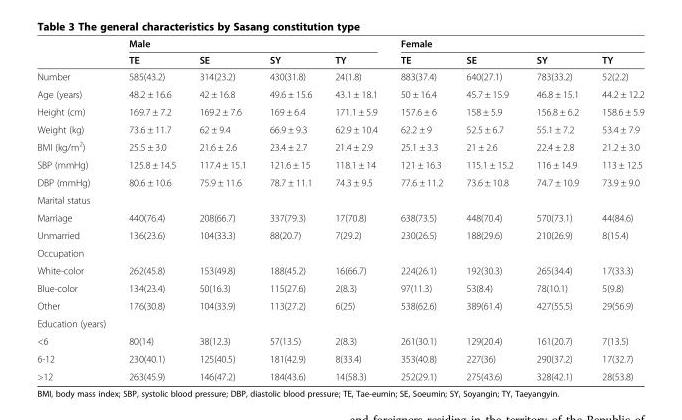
<table><thead><tr><td rowspan="2"></td><td colspan="4">Male</td><td colspan="4">Female</td></tr><tr><td>TE</td><td>SE</td><td>SY</td><td>TY</td><td>TE</td><td>SE</td><td>SY</td><td>TY</td></tr></thead><tbody><tr><td>Number</td><td>585(43.2)</td><td>314(23.2)</td><td>430(31.8)</td><td>24(1.8)</td><td>883(37.4)</td><td>640(27.1)</td><td>783(33.2)</td><td>52(2.2)</td></tr><tr><td>Age (years)</td><td>48.2 ± 16.6</td><td>42 ± 16.8</td><td>49.6 ± 15.6</td><td>43.1 ± 18.1</td><td>50 ± 16.4</td><td>45.7 ± 15.9</td><td>46.8 ± 15.1</td><td>44.2 ± 12.2</td></tr><tr><td>Height (cm)</td><td>169.7 ± 7.2</td><td>169.2 ± 7.6</td><td>169 ± 6.4</td><td>171.1 ± 5.9</td><td>157.6 ± 6</td><td>158 ± 5.9</td><td>156.8 ± 6.2</td><td>158.6 ± 5.9</td></tr><tr><td>Weight (kg)</td><td>73.6 ± 11.7</td><td>62 ± 9.4</td><td>66.9 ± 9.3</td><td>62.9 ± 10.4</td><td>62.2 ± 9</td><td>52.5 ± 6.7</td><td>55.1 ± 7.2</td><td>53.4 ± 7.9</td></tr><tr><td>BMI (kg/m<sup>2</sup>)</td><td>25.5 ± 3.0</td><td>21.6 ± 2.6</td><td>23.4 ± 2.7</td><td>21.4 ± 2.9</td><td>25.1 ± 3.3</td><td>21 ± 2.6</td><td>22.4 ± 2.8</td><td>21.2 ± 3.0</td></tr><tr><td>SBP (mmHg)</td><td>125.8 ± 14.5</td><td>117.4 ± 15.1</td><td>121.6 ± 15</td><td>118.1 ± 14</td><td>121 ± 16.3</td><td>115.1 ± 15.2</td><td>116 ± 14.9</td><td>113 ± 12.5</td></tr><tr><td>DBP (mmHg)</td><td>80.6 ± 10.6</td><td>75.9 ± 11.6</td><td>78.7 ± 11.1</td><td>74.3 ± 9.5</td><td>77.6 ± 11.2</td><td>73.6 ± 10.8</td><td>74.7 ± 10.9</td><td>73.9 ± 9.0</td></tr><tr><td colspan="9">Marital status</td></tr><tr><td>Marriage</td><td>440(76.4)</td><td>208(66.7)</td><td>337(79.3)</td><td>17(70.8)</td><td>638(73.5)</td><td>448(70.4)</td><td>570(73.1)</td><td>44(84.6)</td></tr><tr><td>Unmarried</td><td>136(23.6)</td><td>104(33.3)</td><td>88(20.7)</td><td>7(29.2)</td><td>230(26.5)</td><td>188(29.6)</td><td>210(26.9)</td><td>8(15.4)</td></tr><tr><td colspan="9">Occupation</td></tr><tr><td>White-color</td><td>262(45.8)</td><td>153(49.8)</td><td>188(45.2)</td><td>16(66.7)</td><td>224(26.1)</td><td>192(30.3)</td><td>265(34.4)</td><td>17(33.3)</td></tr><tr><td>Blue-color</td><td>134(23.4)</td><td>50(16.3)</td><td>115(27.6)</td><td>2(8.3)</td><td>97(11.3)</td><td>53(8.4)</td><td>78(10.1)</td><td>5(9.8)</td></tr><tr><td>Other</td><td>176(30.8)</td><td>104(33.9)</td><td>113(27.2)</td><td>6(25)</td><td>538(62.6)</td><td>389(61.4)</td><td>427(55.5)</td><td>29(56.9)</td></tr><tr><td colspan="9">Education (years)</td></tr><tr><td>&lt;6</td><td>80(14)</td><td>38(12.3)</td><td>57(13.5)</td><td>2(8.3)</td><td>261(30.1)</td><td>129(20.4)</td><td>161(20.7)</td><td>7(13.5)</td></tr><tr><td>6-12</td><td>230(40.1)</td><td>125(40.5)</td><td>181(42.9)</td><td>8(33.4)</td><td>353(40.8)</td><td>227(36)</td><td>290(37.2)</td><td>17(32.7)</td></tr><tr><td>&gt;12</td><td>263(45.9)</td><td>146(47.2)</td><td>184(43.6)</td><td>14(58.3)</td><td>252(29.1)</td><td>275(43.6)</td><td>328(42.1)</td><td>28(53.8)</td></tr></tbody></table>